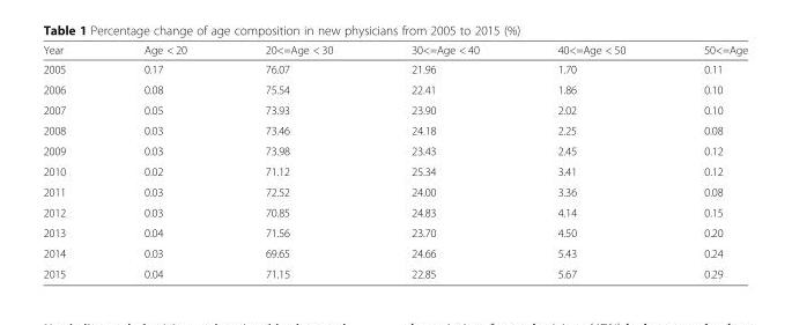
<table><thead><tr><td>Year</td><td>Age &lt; 20</td><td>20&lt;=Age &lt; 30</td><td>30&lt;=Age &lt; 40</td><td>40&lt;=Age &lt; 50</td><td>50&lt;=Age</td></tr></thead><tbody><tr><td>2005</td><td>0.17</td><td>76.07</td><td>21.96</td><td>1.70</td><td>0.11</td></tr><tr><td>2006</td><td>0.08</td><td>75.54</td><td>22.41</td><td>1.86</td><td>0.10</td></tr><tr><td>2007</td><td>0.05</td><td>73.93</td><td>23.90</td><td>2.02</td><td>0.10</td></tr><tr><td>2008</td><td>0.03</td><td>73.46</td><td>24.18</td><td>2.25</td><td>0.08</td></tr><tr><td>2009</td><td>0.03</td><td>73.98</td><td>23.43</td><td>2.45</td><td>0.12</td></tr><tr><td>2010</td><td>0.02</td><td>71.12</td><td>25.34</td><td>3.41</td><td>0.12</td></tr><tr><td>2011</td><td>0.03</td><td>72.52</td><td>24.00</td><td>3.36</td><td>0.08</td></tr><tr><td>2012</td><td>0.03</td><td>70.85</td><td>24.83</td><td>4.14</td><td>0.15</td></tr><tr><td>2013</td><td>0.04</td><td>71.56</td><td>23.70</td><td>4.50</td><td>0.20</td></tr><tr><td>2014</td><td>0.03</td><td>69.65</td><td>24.66</td><td>5.43</td><td>0.24</td></tr><tr><td>2015</td><td>0.04</td><td>71.15</td><td>22.85</td><td>5.67</td><td>0.29</td></tr></tbody></table>